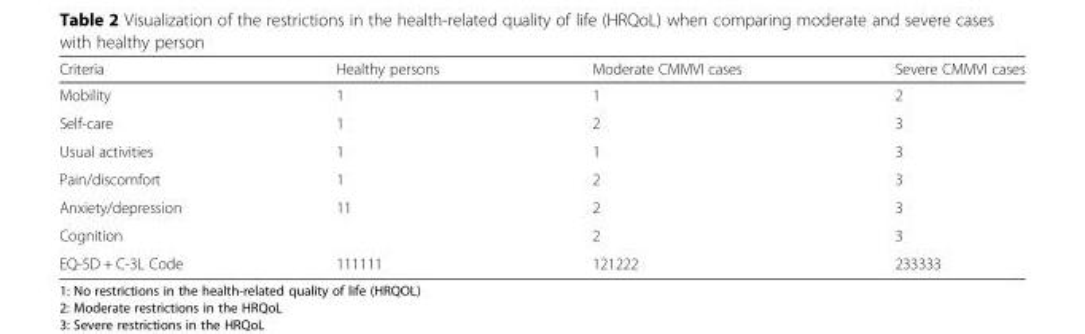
<table><thead><tr><td>Criteria</td><td>Healthy persons</td><td>Moderate CMMVI cases</td><td>Severe CMMVI cases</td></tr></thead><tbody><tr><td>Mobility</td><td>1</td><td>1</td><td>2</td></tr><tr><td>Self-care</td><td>1</td><td>2</td><td>3</td></tr><tr><td>Usual activities</td><td>1</td><td>1</td><td>3</td></tr><tr><td>Pain/discomfort</td><td>1</td><td>2</td><td>3</td></tr><tr><td>Anxiety/depression</td><td rowspan="2">11</td><td>2</td><td>3</td></tr><tr><td>Cognition</td><td>2</td><td>3</td></tr><tr><td>EQ-5D + C-3L Code</td><td>111111</td><td>121222</td><td>233333</td></tr></tbody></table>